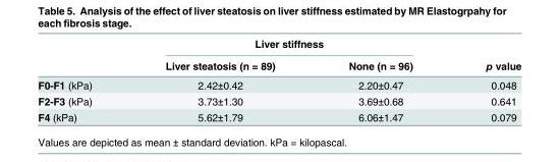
<table><thead><tr><td rowspan="2"></td><td colspan="2">Liver stiffness</td><td rowspan="2">p value</td></tr><tr><td>Liver steatosis (n = 89)</td><td>None (n = 96)</td></tr></thead><tbody><tr><td>F0-F1 (kPa)</td><td>2.42±0.42</td><td>2.20±0.47</td><td>0.048</td></tr><tr><td>F2-F3 (kPa)</td><td>3.73±1.30</td><td>3.69±0.68</td><td>0.641</td></tr><tr><td>F4 (kPa)</td><td>5.62±1.79</td><td>6.06±1.47</td><td>0.079</td></tr></tbody></table>